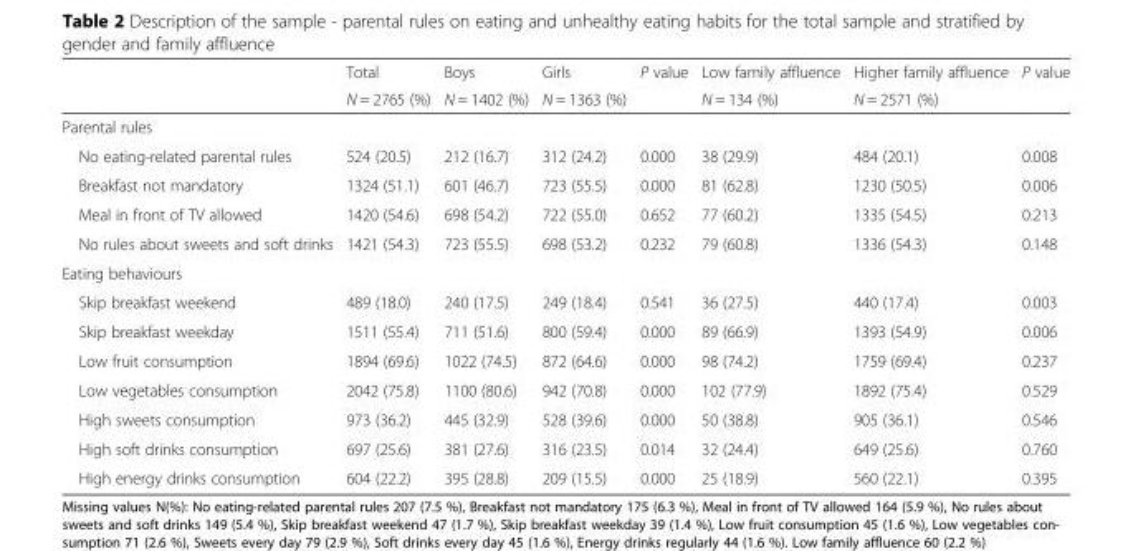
<table><thead><tr><td rowspan="2"></td><td rowspan="2">Total N = 2765 (%)</td><td rowspan="2">Boys N = 1402 (%)</td><td rowspan="2">Girls N = 1363 (%)</td><td rowspan="2">P value</td><td rowspan="2">Low family affluence N = 134 (%)</td><td rowspan="2">Higher family affluence N = 2571 (%)</td><td rowspan="2">P value</td></tr><tr></tr></thead><tbody><tr><td colspan="8">Parental rules</td></tr><tr><td>No eating-related parental rules</td><td>524 (20.5)</td><td>212 (16.7)</td><td>312 (24.2)</td><td>0.000</td><td>38 (29.9)</td><td>484 (20.1)</td><td>0.008</td></tr><tr><td>Breakfast not mandatory</td><td>1324 (51.1)</td><td>601 (46.7)</td><td>723 (55.5)</td><td>0.000</td><td>81 (62.8)</td><td>1230 (50.5)</td><td>0.006</td></tr><tr><td>Meal in front of TV allowed</td><td>1420 (54.6)</td><td>698 (54.2)</td><td>722 (55.0)</td><td>0.652</td><td>77 (60.2)</td><td>1335 (54.5)</td><td>0.213</td></tr><tr><td>No rules about sweets and soft drinks</td><td>1421 (54.3)</td><td>723 (55.5)</td><td>698 (53.2)</td><td>0.232</td><td>79 (60.8)</td><td>1336 (54.3)</td><td>0.148</td></tr><tr><td colspan="8">Eating behaviours</td></tr><tr><td>Skip breakfast weekend</td><td>489 (18.0)</td><td>240 (17.5)</td><td>249 (18.4)</td><td>0.541</td><td>36 (27.5)</td><td>440 (17.4)</td><td>0.003</td></tr><tr><td>Skip breakfast weekday</td><td>1511 (55.4)</td><td>711 (51.6)</td><td>800 (59.4)</td><td>0.000</td><td>89 (66.9)</td><td>1393 (54.9)</td><td>0.006</td></tr><tr><td>Low fruit consumption</td><td>1894 (69.6)</td><td>1022 (74.5)</td><td>872 (64.6)</td><td>0.000</td><td>98 (74.2)</td><td>1759 (69.4)</td><td>0.237</td></tr><tr><td>Low vegetables consumption</td><td>2042 (75.8)</td><td>1100 (80.6)</td><td>942 (70.8)</td><td>0.000</td><td>102 (77.9)</td><td>1892 (75.4)</td><td>0.529</td></tr><tr><td>High sweets consumption</td><td>973 (36.2)</td><td>445 (32.9)</td><td>528 (39.6)</td><td>0.000</td><td>50 (38.8)</td><td>905 (36.1)</td><td>0.546</td></tr><tr><td>High soft drinks consumption</td><td>697 (25.6)</td><td>381 (27.6)</td><td>316 (23.5)</td><td>0.014</td><td>32 (24.4)</td><td>649 (25.6)</td><td>0.760</td></tr><tr><td>High energy drinks consumption</td><td>604 (22.2)</td><td>395 (28.8)</td><td>209 (15.5)</td><td>0.000</td><td>25 (18.9)</td><td>560 (22.1)</td><td>0.395</td></tr></tbody></table>